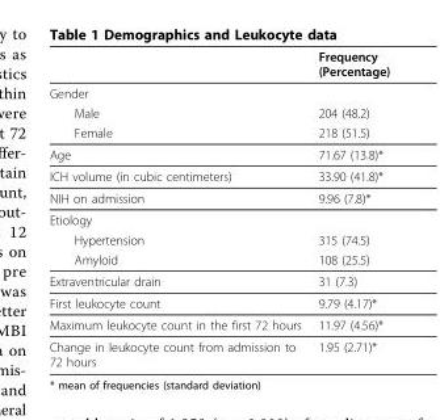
<table><thead><tr><td></td><td>Frequency (Percentage)</td></tr></thead><tbody><tr><td colspan="2">Gender</td></tr><tr><td>Male</td><td>204 (48.2)</td></tr><tr><td>Female</td><td>218 (51.5)</td></tr><tr><td>Age</td><td>71.67 (13.8)*</td></tr><tr><td>ICH volume (in cubic centimeters)</td><td>33.90 (41.8)*</td></tr><tr><td>NIH on admission</td><td>9.96 (7.8)*</td></tr><tr><td colspan="2">Etiology</td></tr><tr><td>Hypertension</td><td>315 (74.5)</td></tr><tr><td>Amyloid</td><td>108 (25.5)</td></tr><tr><td>Extraventricular drain</td><td>31 (7.3)</td></tr><tr><td>First leukocyte count</td><td>9.79 (4.17)*</td></tr><tr><td>Maximum leukocyte count in the first 72 hours</td><td>11.97 (4.56)*</td></tr><tr><td>Change in leukocyte count from admission to 72 hours</td><td>1.95 (2.71)*</td></tr></tbody></table>